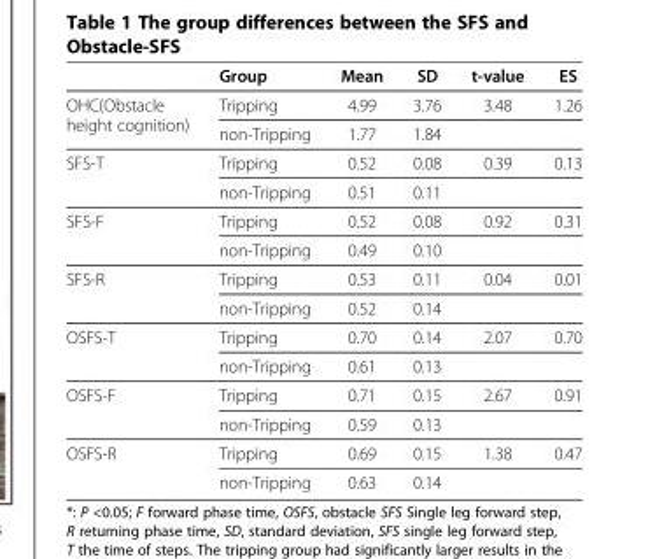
<table><thead><tr><td></td><td>Group</td><td>Mean</td><td>SD</td><td>t-value</td><td>ES</td></tr></thead><tbody><tr><td rowspan="2">OHC(Obstacle height cognition)</td><td>Tripping</td><td>4.99</td><td>3.76</td><td>3.48</td><td>1.26</td></tr><tr><td>non-Tripping</td><td>1.77</td><td>1.84</td><td></td><td></td></tr><tr><td rowspan="2">SFS-T</td><td>Tripping</td><td>0.52</td><td>0.08</td><td>0.39</td><td>0.13</td></tr><tr><td>non-Tripping</td><td>0.51</td><td>0.11</td><td></td><td></td></tr><tr><td rowspan="2">SFS-F</td><td>Tripping</td><td>0.52</td><td>0.08</td><td>0.92</td><td>0.31</td></tr><tr><td>non-Tripping</td><td>0.49</td><td>0.10</td><td></td><td></td></tr><tr><td rowspan="2">SFS-R</td><td>Tripping</td><td>0.53</td><td>0.11</td><td>0.04</td><td>0.01</td></tr><tr><td>non-Tripping</td><td>0.52</td><td>0.14</td><td></td><td></td></tr><tr><td rowspan="2">OSFS-T</td><td>Tripping</td><td>0.70</td><td>0.14</td><td>2.07</td><td>0.70</td></tr><tr><td>non-Tripping</td><td>0.61</td><td>0.13</td><td></td><td></td></tr><tr><td rowspan="2">OSFS-F</td><td>Tripping</td><td>0.71</td><td>0.15</td><td>2.67</td><td>0.91</td></tr><tr><td>non-Tripping</td><td>0.59</td><td>0.13</td><td></td><td></td></tr><tr><td rowspan="2">OSFS-R</td><td>Tripping</td><td>0.69</td><td>0.15</td><td>1.38</td><td>0.47</td></tr><tr><td>non-Tripping</td><td>0.63</td><td>0.14</td><td></td><td></td></tr></tbody></table>